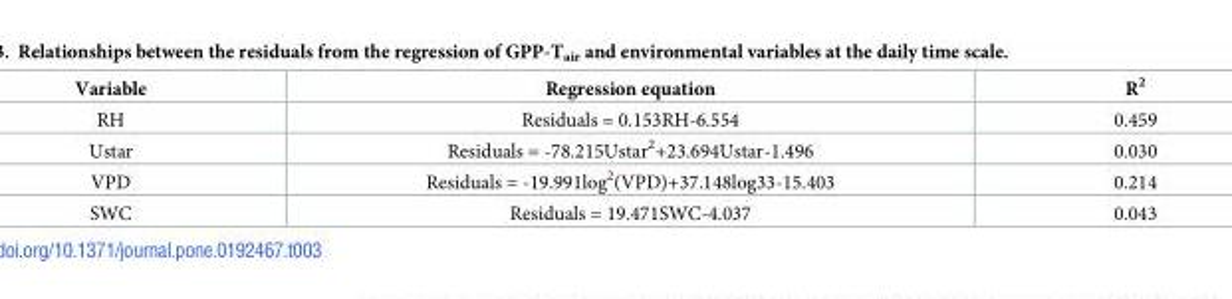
<table><thead><tr><td>Variable</td><td>Regression equation</td><td>R<sup>2</sup></td></tr></thead><tbody><tr><td>RH</td><td>Residuals = 0.153RH-6.554</td><td>0.459</td></tr><tr><td>Ustar</td><td>Residuals = -78.215Ustar<sup>2</sup>+23.694Ustar-1.496</td><td>0.030</td></tr><tr><td>VPD</td><td>Residuals = -19.991log<sup>2</sup>(VPD)+37.148log33-15.403</td><td>0.214</td></tr><tr><td>SWC</td><td>Residuals = 19.471SWC-4.037</td><td>0.043</td></tr></tbody></table>